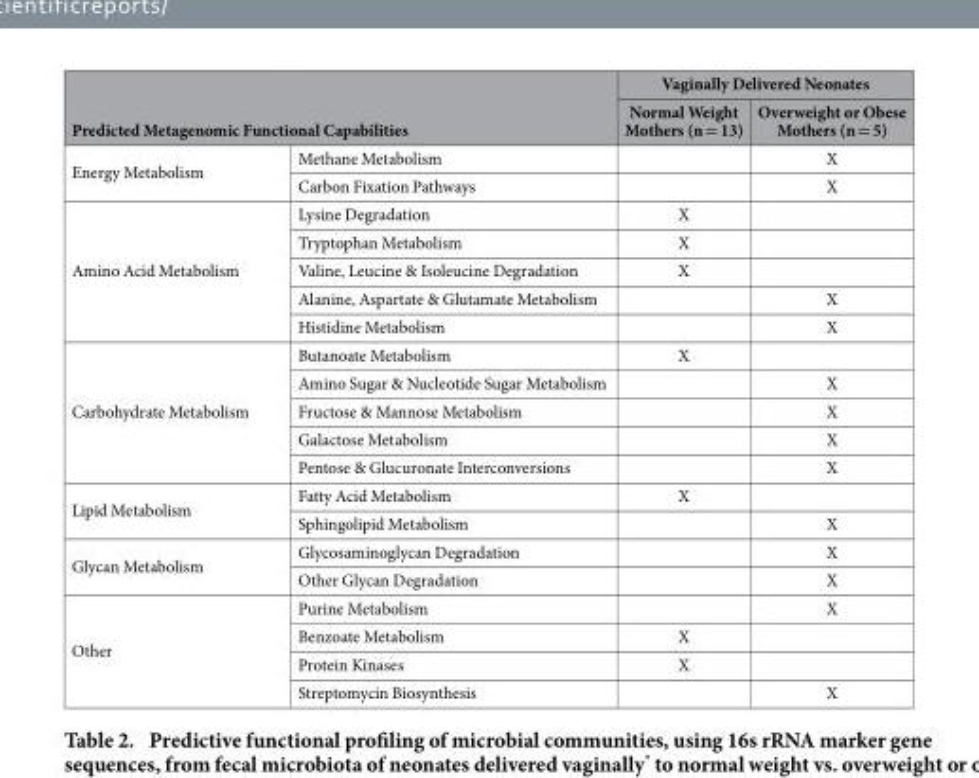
<table><thead><tr><td></td><td></td><td colspan="2">Vaginally Delivered Neonates</td></tr><tr><td colspan="2">Predicted Metagenomic Functional Capabilities</td><td>Normal Weight Mothers (n = 13)</td><td>Overweight or Obese Mothers (n = 5)</td></tr></thead><tbody><tr><td rowspan="2">Energy Metabolism</td><td>Methane Metabolism</td><td></td><td>X</td></tr><tr><td>Carbon Fixation Pathways</td><td></td><td>X</td></tr><tr><td rowspan="5">Amino Acid Metabolism</td><td>Lysine Degradation</td><td>X</td><td></td></tr><tr><td>Tryptophan Metabolism</td><td>X</td><td></td></tr><tr><td>Valine, Leucine &amp; Isoleucine Degradation</td><td>X</td><td></td></tr><tr><td>Alanine, Aspartate &amp; Glutamate Metabolism</td><td></td><td>X</td></tr><tr><td>Histidine Metabolism</td><td></td><td>X</td></tr><tr><td rowspan="5">Carbohydrate Metabolism</td><td>Butanoate Metabolism</td><td>X</td><td></td></tr><tr><td>Amino Sugar &amp; Nucleotide Sugar Metabolism</td><td></td><td>X</td></tr><tr><td>Fructose &amp; Mannose Metabolism</td><td></td><td>X</td></tr><tr><td>Galactose Metabolism</td><td></td><td>X</td></tr><tr><td>Pentose &amp; Glucuronate Interconversions</td><td></td><td>X</td></tr><tr><td rowspan="2">Lipid Metabolism</td><td>Fatty Acid Metabolism</td><td>X</td><td></td></tr><tr><td>Sphingolipid Metabolism</td><td></td><td>X</td></tr><tr><td rowspan="2">Glycan Metabolism</td><td>Glycosaminoglycan Degradation</td><td></td><td>X</td></tr><tr><td>Other Glycan Degradation</td><td></td><td>X</td></tr><tr><td rowspan="4">Other</td><td>Purine Metabolism</td><td></td><td>X</td></tr><tr><td>Benzoate Metabolism</td><td>X</td><td></td></tr><tr><td>Protein Kinases</td><td>X</td><td></td></tr><tr><td>Streptomycin Biosynthesis</td><td></td><td>X</td></tr></tbody></table>